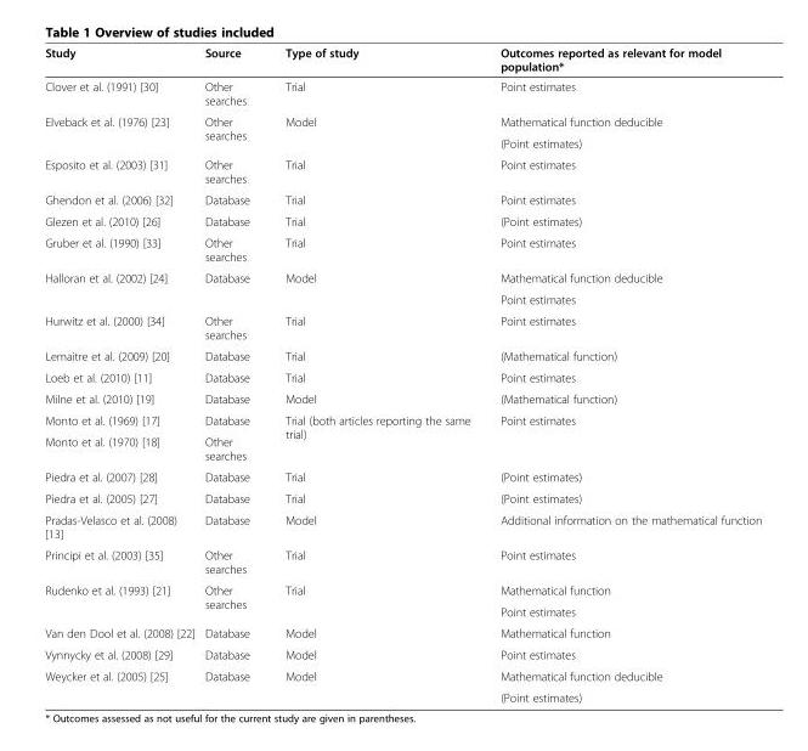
<table><thead><tr><td>Study</td><td>Source</td><td>Type of study</td><td>Outcomes reported as relevant for model population*</td></tr></thead><tbody><tr><td>Clover et al. (1991) [30]</td><td>Other searches</td><td>Trial</td><td>Point estimates</td></tr><tr><td rowspan="2">Elveback et al. (1976) [23]</td><td rowspan="2">Other searches</td><td rowspan="2">Model</td><td>Mathematical function deducible</td></tr><tr><td>(Point estimates)</td></tr><tr><td>Esposito et al. (2003) [31]</td><td>Other searches</td><td>Trial</td><td>Point estimates</td></tr><tr><td>Ghendon et al. (2006) [32]</td><td>Database</td><td>Trial</td><td>Point estimates</td></tr><tr><td>Glezen et al. (2010) [26]</td><td>Database</td><td>Trial</td><td>(Point estimates)</td></tr><tr><td>Gruber et al. (1990) [33]</td><td>Other searches</td><td>Trial</td><td>Point estimates</td></tr><tr><td rowspan="2">Halloran et al. (2002) [24]</td><td rowspan="2">Database</td><td rowspan="2">Model</td><td>Mathematical function deducible</td></tr><tr><td>Point estimates</td></tr><tr><td>Hurwitz et al. (2000) [34]</td><td>Other searches</td><td>Trial</td><td>Point estimates</td></tr><tr><td>Lemaitre et al. (2009) [20]</td><td>Database</td><td>Trial</td><td>(Mathematical function)</td></tr><tr><td>Loeb et al. (2010) [11]</td><td>Database</td><td>Trial</td><td>Point estimates</td></tr><tr><td>Milne et al. (2010) [19]</td><td>Database</td><td>Model</td><td>(Mathematical function)</td></tr><tr><td>Monto et al. (1969) [17]</td><td>Database</td><td rowspan="2">Trial (both articles reporting the same trial)</td><td rowspan="2">Point estimates</td></tr><tr><td>Monto et al. (1970) [18]</td><td>Other searches</td></tr><tr><td>Piedra et al. (2007) [28]</td><td>Database</td><td>Trial</td><td>(Point estimates)</td></tr><tr><td>Piedra et al. (2005) [27]</td><td>Database</td><td>Trial</td><td>(Point estimates)</td></tr><tr><td>Pradas-Velasco et al. (2008) [13]</td><td>Database</td><td>Model</td><td>Additional information on the mathematical function</td></tr><tr><td>Principi et al. (2003) [35]</td><td>Other searches</td><td>Trial</td><td>Point estimates</td></tr><tr><td rowspan="2">Rudenko et al. (1993) [21]</td><td rowspan="2">Other searches</td><td rowspan="2">Trial</td><td>Mathematical function</td></tr><tr><td>Point estimates</td></tr><tr><td>Van den Dool et al. (2008) [22]</td><td>Database</td><td>Model</td><td>Mathematical function</td></tr><tr><td>Vynnycky et al. (2008) [29]</td><td>Database</td><td>Model</td><td>Point estimates</td></tr><tr><td rowspan="2">Weycker et al. (2005) [25]</td><td>Database</td><td>Model</td><td>Mathematical function deducible</td></tr><tr><td></td><td></td><td>(Point estimates)</td></tr></tbody></table>